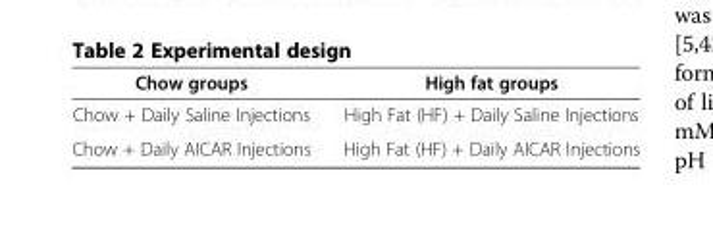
<table><thead><tr><td>Chow groups</td><td>High fat groups</td></tr></thead><tbody><tr><td>Chow + Daily Saline Injections</td><td>High Fat (HF) + Daily Saline Injections</td></tr><tr><td>Chow + Daily AICAR Injections</td><td>High Fat (HF) + Daily AICAR Injections</td></tr></tbody></table>